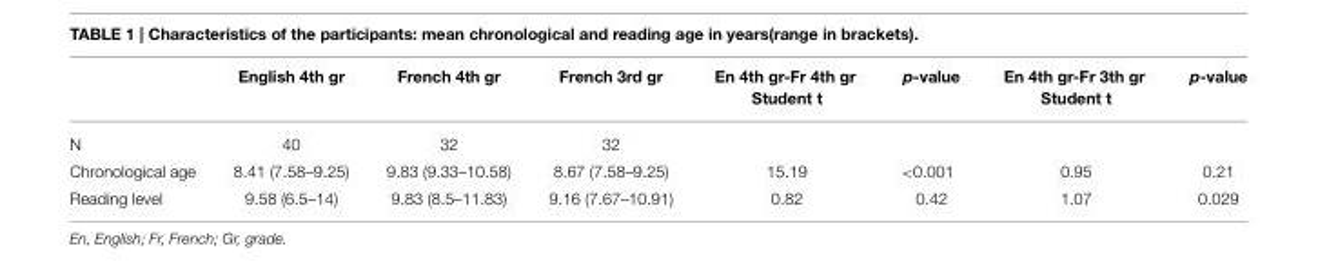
<table><thead><tr><td></td><td>English 4th gr</td><td>French 4th gr</td><td>French 3rd gr</td><td>En 4th gr-Fr 4th gr Student t</td><td>p-value</td><td>En 4th gr-Fr 3th gr Student t</td><td>p-value</td></tr></thead><tbody><tr><td>N</td><td>40</td><td>32</td><td>32</td><td></td><td></td><td></td><td></td></tr><tr><td>Chronological age</td><td>8.41 (7.58–9.25)</td><td>9.83 (9.33–10.58)</td><td>8.67 (7.58–9.25)</td><td>15.19</td><td>&lt;0.001</td><td>0.95</td><td>0.21</td></tr><tr><td>Reading level</td><td>9.58 (6.5–14)</td><td>9.83 (8.5–11.83)</td><td>9.16 (7.67–10.91)</td><td>0.82</td><td>0.42</td><td>1.07</td><td>0.029</td></tr></tbody></table>